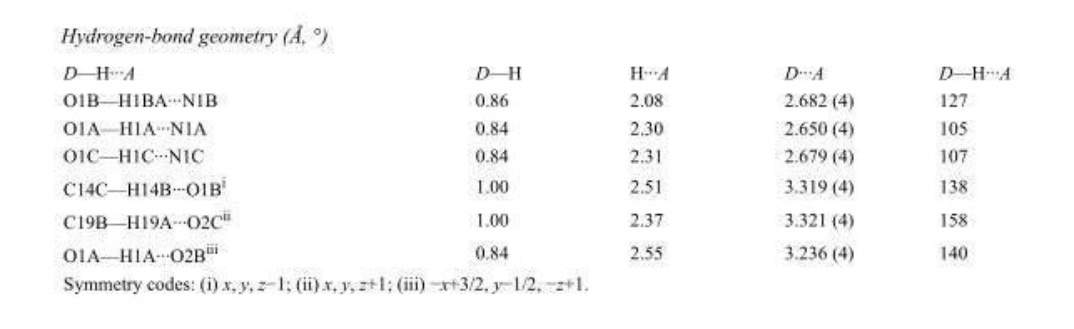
<table><tbody><tr><td>D—H···A</td><td>D—H</td><td>H···A</td><td>D···A</td><td>D—H···A</td></tr><tr><td>O1B—H1BA···N1B</td><td>0.86</td><td>2.08</td><td>2.682 (4)</td><td>127</td></tr><tr><td>O1A—H1A···N1A</td><td>0.84</td><td>2.30</td><td>2.650 (4)</td><td>105</td></tr><tr><td>O1C—H1C···N1C</td><td>0.84</td><td>2.31</td><td>2.679 (4)</td><td>107</td></tr><tr><td>C14C—H14B···O1B<sup>i</sup></td><td>1.00</td><td>2.51</td><td>3.319 (4)</td><td>138</td></tr><tr><td>C19B—H19A···O2C<sup>ii</sup></td><td>1.00</td><td>2.37</td><td>3.321 (4)</td><td>158</td></tr><tr><td>O1A—H1A···O2B<sup>iii</sup></td><td>0.84</td><td>2.55</td><td>3.236 (4)</td><td>140</td></tr></tbody></table>